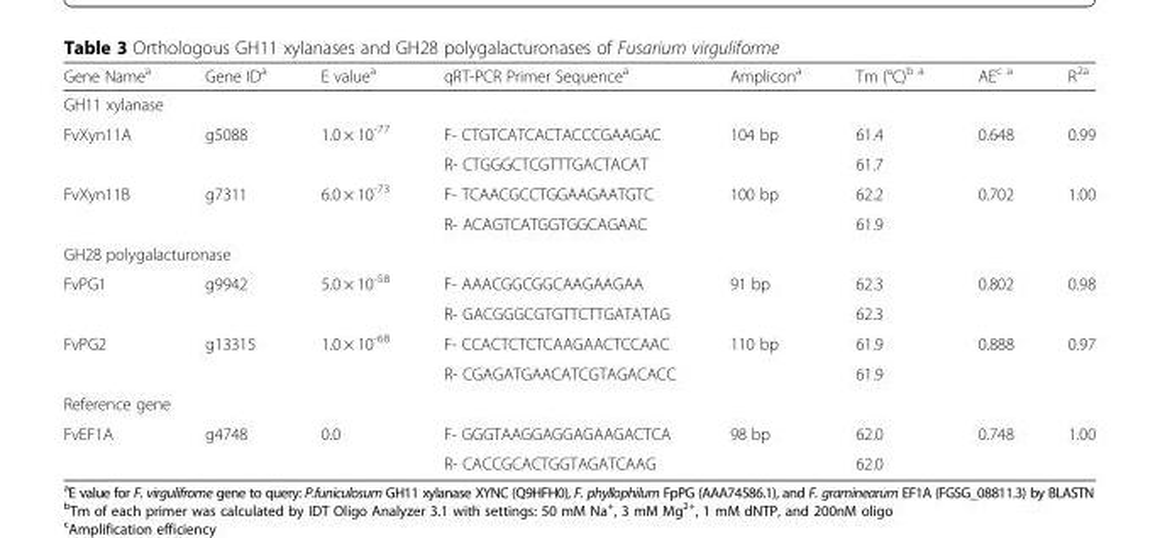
<table><thead><tr><td>Gene Name<sup>a</sup></td><td>Gene ID<sup>a</sup></td><td>E value<sup>a</sup></td><td>qRT-PCR Primer Sequence<sup>a</sup></td><td>Amplicon<sup>a</sup></td><td>Tm (°C)<sup>b a</sup></td><td>AE<sup>c a</sup></td><td>R<sup>2a</sup></td></tr></thead><tbody><tr><td colspan="8">GH11 xylanase</td></tr><tr><td rowspan="2">FvXyn11A</td><td rowspan="2">g5088</td><td rowspan="2">1.0 × 10<sup>-77</sup></td><td>F- CTGTCATCACTACCCGAAGAC</td><td rowspan="2">104 bp</td><td>61.4</td><td rowspan="2">0.648</td><td rowspan="2">0.99</td></tr><tr><td>R- CTGGGCTCGTTTGACTACAT</td><td>61.7</td></tr><tr><td rowspan="2">FvXyn11B</td><td rowspan="2">g7311</td><td rowspan="2">6.0 × 10<sup>-73</sup></td><td>F- TCAACGCCTGGAAGAATGTC</td><td rowspan="2">100 bp</td><td>62.2</td><td rowspan="2">0.702</td><td rowspan="2">1.00</td></tr><tr><td>R- ACAGTCATGGTGGCAGAAC</td><td>61.9</td></tr><tr><td colspan="8">GH28 polygalacturonase</td></tr><tr><td rowspan="2">FvPG1</td><td rowspan="2">g9942</td><td rowspan="2">5.0 × 10<sup>-58</sup></td><td>F- AAACGGCGGCAAGAAGAA</td><td rowspan="2">91 bp</td><td>62.3</td><td rowspan="2">0.802</td><td rowspan="2">0.98</td></tr><tr><td>R- GACGGGCGTGTTCTTGATATAG</td><td>62.3</td></tr><tr><td rowspan="2">FvPG2</td><td rowspan="2">g13315</td><td rowspan="2">1.0 × 10<sup>-68</sup></td><td>F- CCACTCTCTCAAGAACTCCAAC</td><td rowspan="2">110 bp</td><td>61.9</td><td rowspan="2">0.888</td><td rowspan="2">0.97</td></tr><tr><td>R- CGAGATGAACATCGTAGACACC</td><td>61.9</td></tr><tr><td colspan="8">Reference gene</td></tr><tr><td rowspan="2">FvEF1A</td><td rowspan="2">g4748</td><td rowspan="2">0.0</td><td>F- GGGTAAGGAGGAGAAGACTCA</td><td rowspan="2">98 bp</td><td>62.0</td><td rowspan="2">0.748</td><td rowspan="2">1.00</td></tr><tr><td>R- CACCGCACTGGTAGATCAAG</td><td>62.0</td></tr></tbody></table>